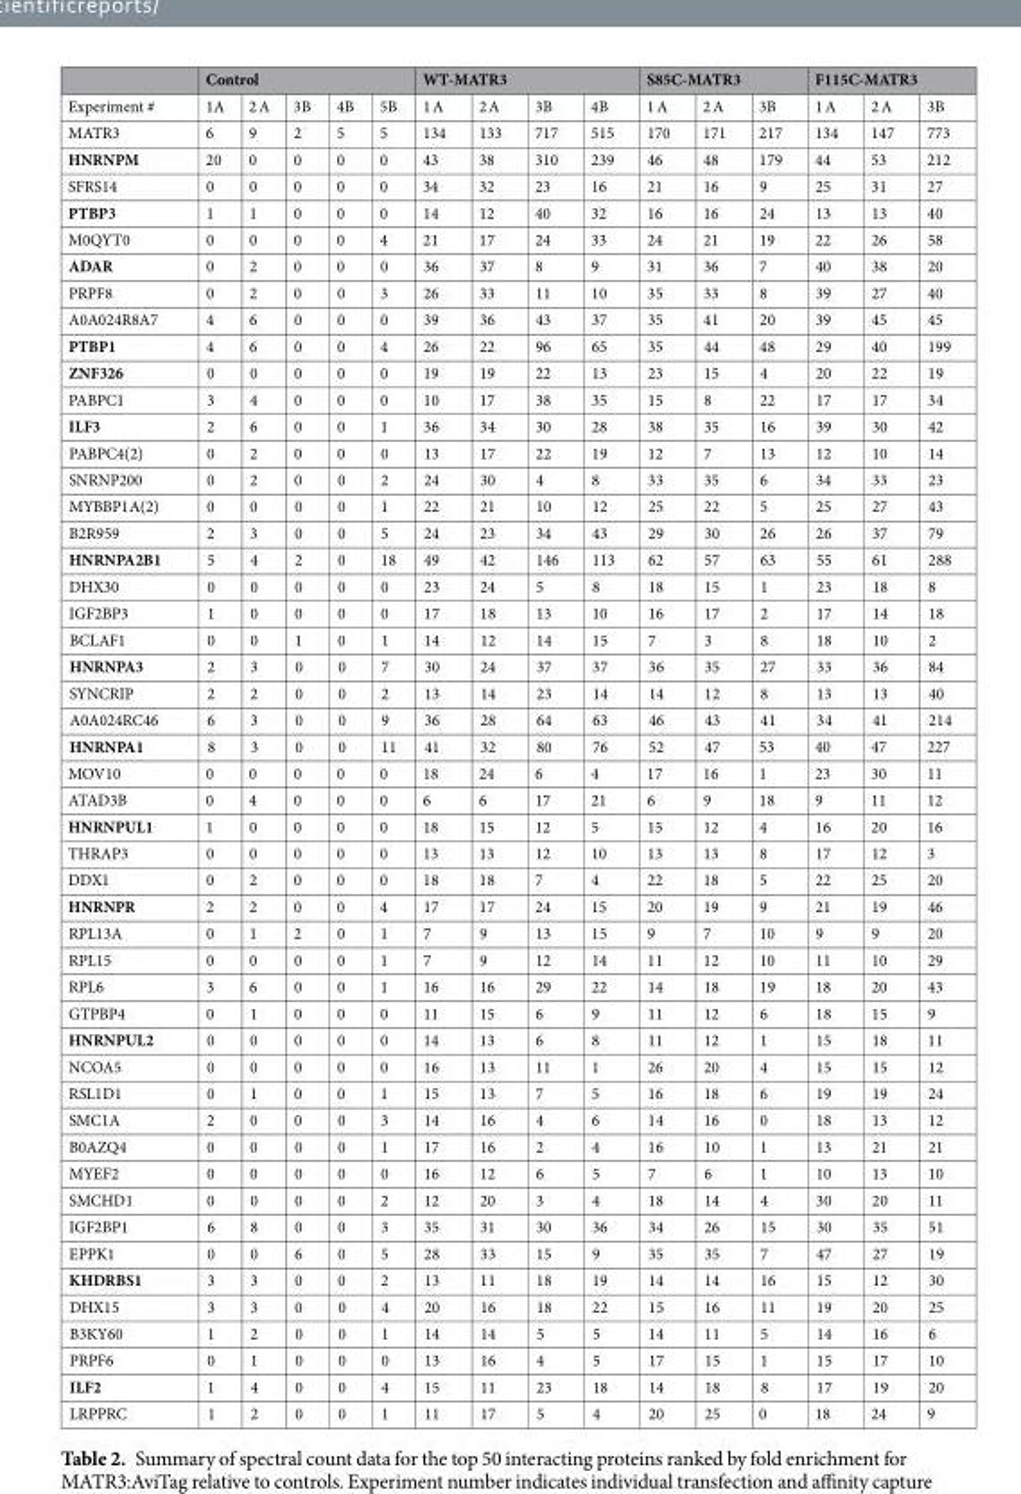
<table><thead><tr><td rowspan="2">Experiment #</td><td colspan="5">Control</td><td colspan="4">WT-MATR3</td><td colspan="3">S85C-MATR3</td><td colspan="3">F115C-MATR3</td></tr><tr><td>1A</td><td>2 A</td><td>3B</td><td>4B</td><td>5B</td><td>1 A</td><td>2 A</td><td>3B</td><td>4B</td><td>1 A</td><td>2 A</td><td>3B</td><td>1 A</td><td>2 A</td><td>3B</td></tr></thead><tbody><tr><td>MATR3</td><td>6</td><td>9</td><td>2</td><td>5</td><td>5</td><td>134</td><td>133</td><td>717</td><td>515</td><td>170</td><td>171</td><td>217</td><td>134</td><td>147</td><td>773</td></tr><tr><td>HNRNPM</td><td>20</td><td>0</td><td>0</td><td>0</td><td>0</td><td>43</td><td>38</td><td>310</td><td>239</td><td>46</td><td>48</td><td>179</td><td>44</td><td>53</td><td>212</td></tr><tr><td>SFRS14</td><td>0</td><td>0</td><td>0</td><td>0</td><td>0</td><td>34</td><td>32</td><td>23</td><td>16</td><td>21</td><td>16</td><td>9</td><td>25</td><td>31</td><td>27</td></tr><tr><td>PTBP3</td><td>1</td><td>1</td><td>0</td><td>0</td><td>0</td><td>14</td><td>12</td><td>40</td><td>32</td><td>16</td><td>16</td><td>24</td><td>13</td><td>13</td><td>40</td></tr><tr><td>M0QYT0</td><td>0</td><td>0</td><td>0</td><td>0</td><td>4</td><td>21</td><td>17</td><td>24</td><td>33</td><td>24</td><td>21</td><td>19</td><td>22</td><td>26</td><td>58</td></tr><tr><td>ADAR</td><td>0</td><td>2</td><td>0</td><td>0</td><td>0</td><td>36</td><td>37</td><td>8</td><td>9</td><td>31</td><td>36</td><td>7</td><td>40</td><td>38</td><td>20</td></tr><tr><td>PRPF8</td><td>0</td><td>2</td><td>0</td><td>0</td><td>3</td><td>26</td><td>33</td><td>11</td><td>10</td><td>35</td><td>33</td><td>8</td><td>39</td><td>27</td><td>40</td></tr><tr><td>A0A024R8A7</td><td>4</td><td>6</td><td>0</td><td>0</td><td>0</td><td>39</td><td>36</td><td>43</td><td>37</td><td>35</td><td>41</td><td>20</td><td>39</td><td>45</td><td>45</td></tr><tr><td>PTBP1</td><td>4</td><td>6</td><td>0</td><td>0</td><td>4</td><td>26</td><td>22</td><td>96</td><td>65</td><td>35</td><td>44</td><td>48</td><td>29</td><td>40</td><td>199</td></tr><tr><td>ZNF326</td><td>0</td><td>0</td><td>0</td><td>0</td><td>0</td><td>19</td><td>19</td><td>22</td><td>13</td><td>23</td><td>15</td><td>4</td><td>20</td><td>22</td><td>19</td></tr><tr><td>PABPC1</td><td>3</td><td>4</td><td>0</td><td>0</td><td>0</td><td>10</td><td>17</td><td>38</td><td>35</td><td>15</td><td>8</td><td>22</td><td>17</td><td>17</td><td>34</td></tr><tr><td>ILF3</td><td>2</td><td>6</td><td>0</td><td>0</td><td>1</td><td>36</td><td>34</td><td>30</td><td>28</td><td>38</td><td>35</td><td>16</td><td>39</td><td>30</td><td>42</td></tr><tr><td>PABPC4(2)</td><td>0</td><td>2</td><td>0</td><td>0</td><td>0</td><td>13</td><td>17</td><td>22</td><td>19</td><td>12</td><td>7</td><td>13</td><td>12</td><td>10</td><td>14</td></tr><tr><td>SNRNP200</td><td>0</td><td>2</td><td>0</td><td>0</td><td>2</td><td>24</td><td>30</td><td>4</td><td>8</td><td>33</td><td>35</td><td>6</td><td>34</td><td>33</td><td>23</td></tr><tr><td>MYBBP1A(2)</td><td>0</td><td>0</td><td>0</td><td>0</td><td>1</td><td>22</td><td>21</td><td>10</td><td>12</td><td>25</td><td>22</td><td>5</td><td>25</td><td>27</td><td>43</td></tr><tr><td>B2R959</td><td>2</td><td>3</td><td>0</td><td>0</td><td>5</td><td>24</td><td>23</td><td>34</td><td>43</td><td>29</td><td>30</td><td>26</td><td>26</td><td>37</td><td>79</td></tr><tr><td>HNRNPA2B1</td><td>5</td><td>4</td><td>2</td><td>0</td><td>18</td><td>49</td><td>42</td><td>146</td><td>113</td><td>62</td><td>57</td><td>63</td><td>55</td><td>61</td><td>288</td></tr><tr><td>DHX30</td><td>0</td><td>0</td><td>0</td><td>0</td><td>0</td><td>23</td><td>24</td><td>5</td><td>8</td><td>18</td><td>15</td><td>1</td><td>23</td><td>18</td><td>8</td></tr><tr><td>IGF2BP3</td><td>1</td><td>0</td><td>0</td><td>0</td><td>0</td><td>17</td><td>18</td><td>13</td><td>10</td><td>16</td><td>17</td><td>2</td><td>17</td><td>14</td><td>18</td></tr><tr><td>BCLAF1</td><td>0</td><td>0</td><td>1</td><td>0</td><td>1</td><td>14</td><td>12</td><td>14</td><td>15</td><td>7</td><td>3</td><td>8</td><td>18</td><td>10</td><td>2</td></tr><tr><td>HNRNPA3</td><td>2</td><td>3</td><td>0</td><td>0</td><td>7</td><td>30</td><td>24</td><td>37</td><td>37</td><td>36</td><td>35</td><td>27</td><td>33</td><td>36</td><td>84</td></tr><tr><td>SYNCRIP</td><td>2</td><td>2</td><td>0</td><td>0</td><td>2</td><td>13</td><td>14</td><td>23</td><td>14</td><td>14</td><td>12</td><td>8</td><td>13</td><td>13</td><td>40</td></tr><tr><td>A0A024RC46</td><td>6</td><td>3</td><td>0</td><td>0</td><td>9</td><td>36</td><td>28</td><td>64</td><td>63</td><td>46</td><td>43</td><td>41</td><td>34</td><td>41</td><td>214</td></tr><tr><td>HNRNPA1</td><td>8</td><td>3</td><td>0</td><td>0</td><td>11</td><td>41</td><td>32</td><td>80</td><td>76</td><td>52</td><td>47</td><td>53</td><td>40</td><td>47</td><td>227</td></tr><tr><td>MOV10</td><td>0</td><td>0</td><td>0</td><td>0</td><td>0</td><td>18</td><td>24</td><td>6</td><td>4</td><td>17</td><td>16</td><td>1</td><td>23</td><td>30</td><td>11</td></tr><tr><td>ATAD3B</td><td>0</td><td>4</td><td>0</td><td>0</td><td>0</td><td>6</td><td>6</td><td>17</td><td>21</td><td>6</td><td>9</td><td>18</td><td>9</td><td>11</td><td>12</td></tr><tr><td>HNRNPUL1</td><td>1</td><td>0</td><td>0</td><td>0</td><td>0</td><td>18</td><td>15</td><td>12</td><td>5</td><td>15</td><td>12</td><td>4</td><td>16</td><td>20</td><td>16</td></tr><tr><td>THRAP3</td><td>0</td><td>0</td><td>0</td><td>0</td><td>0</td><td>13</td><td>13</td><td>12</td><td>10</td><td>13</td><td>13</td><td>8</td><td>17</td><td>12</td><td>3</td></tr><tr><td>DDX1</td><td>0</td><td>2</td><td>0</td><td>0</td><td>0</td><td>18</td><td>18</td><td>7</td><td>4</td><td>22</td><td>18</td><td>5</td><td>22</td><td>25</td><td>20</td></tr><tr><td>HNRNPR</td><td>2</td><td>2</td><td>0</td><td>0</td><td>4</td><td>17</td><td>17</td><td>24</td><td>15</td><td>20</td><td>19</td><td>9</td><td>21</td><td>19</td><td>46</td></tr><tr><td>RPL13A</td><td>0</td><td>1</td><td>2</td><td>0</td><td>1</td><td>7</td><td>9</td><td>13</td><td>15</td><td>9</td><td>7</td><td>10</td><td>9</td><td>9</td><td>20</td></tr><tr><td>RPL15</td><td>0</td><td>0</td><td>0</td><td>0</td><td>1</td><td>7</td><td>9</td><td>12</td><td>14</td><td>11</td><td>12</td><td>10</td><td>11</td><td>10</td><td>29</td></tr><tr><td>RPL6</td><td>3</td><td>6</td><td>0</td><td>0</td><td>1</td><td>16</td><td>16</td><td>29</td><td>22</td><td>14</td><td>18</td><td>19</td><td>18</td><td>20</td><td>43</td></tr><tr><td>GTPBP4</td><td>0</td><td>1</td><td>0</td><td>0</td><td>0</td><td>11</td><td>15</td><td>6</td><td>9</td><td>11</td><td>12</td><td>6</td><td>18</td><td>15</td><td>9</td></tr><tr><td>HNRNPUL2</td><td>0</td><td>0</td><td>0</td><td>0</td><td>0</td><td>14</td><td>13</td><td>6</td><td>8</td><td>11</td><td>12</td><td>1</td><td>15</td><td>18</td><td>11</td></tr><tr><td>NCOA5</td><td>0</td><td>0</td><td>0</td><td>0</td><td>0</td><td>16</td><td>13</td><td>11</td><td>1</td><td>26</td><td>20</td><td>4</td><td>15</td><td>15</td><td>12</td></tr><tr><td>RSL1D1</td><td>0</td><td>1</td><td>0</td><td>0</td><td>1</td><td>15</td><td>13</td><td>7</td><td>5</td><td>16</td><td>18</td><td>6</td><td>19</td><td>19</td><td>24</td></tr><tr><td>SMC1A</td><td>2</td><td>0</td><td>0</td><td>0</td><td>3</td><td>14</td><td>16</td><td>4</td><td>6</td><td>14</td><td>16</td><td>0</td><td>18</td><td>13</td><td>12</td></tr><tr><td>B0AZQ4</td><td>0</td><td>0</td><td>0</td><td>0</td><td>1</td><td>17</td><td>16</td><td>2</td><td>4</td><td>16</td><td>10</td><td>1</td><td>13</td><td>21</td><td>21</td></tr><tr><td>MYEF2</td><td>0</td><td>0</td><td>0</td><td>0</td><td>0</td><td>16</td><td>12</td><td>6</td><td>5</td><td>7</td><td>6</td><td>1</td><td>10</td><td>13</td><td>10</td></tr><tr><td>SMCHD1</td><td>0</td><td>0</td><td>0</td><td>0</td><td>2</td><td>12</td><td>20</td><td>3</td><td>4</td><td>18</td><td>14</td><td>4</td><td>30</td><td>20</td><td>11</td></tr><tr><td>IGF2BP1</td><td>6</td><td>8</td><td>0</td><td>0</td><td>3</td><td>35</td><td>31</td><td>30</td><td>36</td><td>34</td><td>26</td><td>15</td><td>30</td><td>35</td><td>51</td></tr><tr><td>EPPK1</td><td>0</td><td>0</td><td>6</td><td>0</td><td>5</td><td>28</td><td>33</td><td>15</td><td>9</td><td>35</td><td>35</td><td>7</td><td>47</td><td>27</td><td>19</td></tr><tr><td>KHDRBS1</td><td>3</td><td>3</td><td>0</td><td>0</td><td>2</td><td>13</td><td>11</td><td>18</td><td>19</td><td>14</td><td>14</td><td>16</td><td>15</td><td>12</td><td>30</td></tr><tr><td>DHX15</td><td>3</td><td>3</td><td>0</td><td>0</td><td>4</td><td>20</td><td>16</td><td>18</td><td>22</td><td>15</td><td>16</td><td>11</td><td>19</td><td>20</td><td>25</td></tr><tr><td>B3KY60</td><td>1</td><td>2</td><td>0</td><td>0</td><td>1</td><td>14</td><td>14</td><td>5</td><td>5</td><td>14</td><td>11</td><td>5</td><td>14</td><td>16</td><td>6</td></tr><tr><td>PRPF6</td><td>0</td><td>1</td><td>0</td><td>0</td><td>0</td><td>13</td><td>16</td><td>4</td><td>5</td><td>17</td><td>15</td><td>1</td><td>15</td><td>17</td><td>10</td></tr><tr><td>ILF2</td><td>1</td><td>4</td><td>0</td><td>0</td><td>4</td><td>15</td><td>11</td><td>23</td><td>18</td><td>14</td><td>18</td><td>8</td><td>17</td><td>19</td><td>20</td></tr><tr><td>LRPPRC</td><td>1</td><td>2</td><td>0</td><td>0</td><td>1</td><td>11</td><td>17</td><td>5</td><td>4</td><td>20</td><td>25</td><td>0</td><td>18</td><td>24</td><td>9</td></tr></tbody></table>